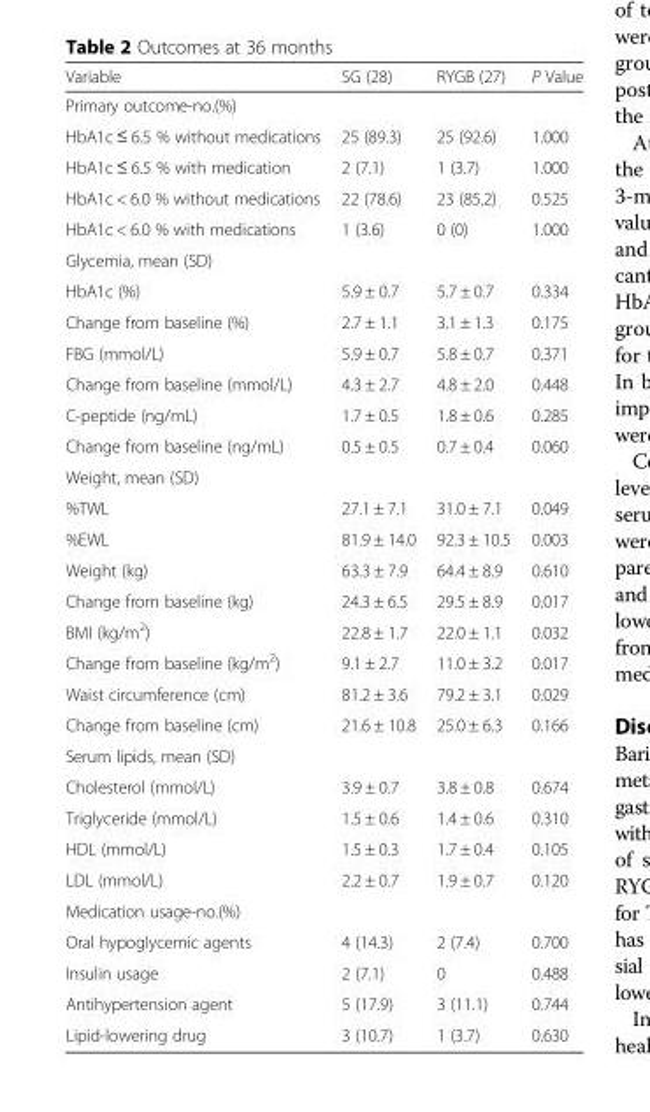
<table><thead><tr><td>Variable</td><td>SG (28)</td><td>RYGB (27)</td><td>P Value</td></tr></thead><tbody><tr><td colspan="4">Primary outcome-no.(%)</td></tr><tr><td>HbA1c ≤ 6.5 % without medications</td><td>25 (89.3)</td><td>25 (92.6)</td><td>1.000</td></tr><tr><td>HbA1c ≤ 6.5 % with medication</td><td>2 (7.1)</td><td>1 (3.7)</td><td>1.000</td></tr><tr><td>HbA1c &lt; 6.0 % without medications</td><td>22 (78.6)</td><td>23 (85.2)</td><td>0.525</td></tr><tr><td>HbA1c &lt; 6.0 % with medications</td><td>1 (3.6)</td><td>0 (0)</td><td>1.000</td></tr><tr><td colspan="4">Glycemia, mean (SD)</td></tr><tr><td>HbA1c (%)</td><td>5.9 ± 0.7</td><td>5.7 ± 0.7</td><td>0.334</td></tr><tr><td>Change from baseline (%)</td><td>2.7 ± 1.1</td><td>3.1 ± 1.3</td><td>0.175</td></tr><tr><td>FBG (mmol/L)</td><td>5.9 ± 0.7</td><td>5.8 ± 0.7</td><td>0.371</td></tr><tr><td>Change from baseline (mmol/L)</td><td>4.3 ± 2.7</td><td>4.8 ± 2.0</td><td>0.448</td></tr><tr><td>C-peptide (ng/mL)</td><td>1.7 ± 0.5</td><td>1.8 ± 0.6</td><td>0.285</td></tr><tr><td>Change from baseline (ng/mL)</td><td>0.5 ± 0.5</td><td>0.7 ± 0.4</td><td>0.060</td></tr><tr><td colspan="4">Weight, mean (SD)</td></tr><tr><td>%TWL</td><td>27.1 ± 7.1</td><td>31.0 ± 7.1</td><td>0.049</td></tr><tr><td>%EWL</td><td>81.9 ± 14.0</td><td>92.3 ± 10.5</td><td>0.003</td></tr><tr><td>Weight (kg)</td><td>63.3 ± 7.9</td><td>64.4 ± 8.9</td><td>0.610</td></tr><tr><td>Change from baseline (kg)</td><td>24.3 ± 6.5</td><td>29.5 ± 8.9</td><td>0.017</td></tr><tr><td>BMI (kg/m<sup>2</sup>)</td><td>22.8 ± 1.7</td><td>22.0 ± 1.1</td><td>0.032</td></tr><tr><td>Change from baseline (kg/m<sup>2</sup>)</td><td>9.1 ± 2.7</td><td>11.0 ± 3.2</td><td>0.017</td></tr><tr><td>Waist circumference (cm)</td><td>81.2 ± 3.6</td><td>79.2 ± 3.1</td><td>0.029</td></tr><tr><td>Change from baseline (cm)</td><td>21.6 ± 10.8</td><td>25.0 ± 6.3</td><td>0.166</td></tr><tr><td colspan="4">Serum lipids, mean (SD)</td></tr><tr><td>Cholesterol (mmol/L)</td><td>3.9 ± 0.7</td><td>3.8 ± 0.8</td><td>0.674</td></tr><tr><td>Triglyceride (mmol/L)</td><td>1.5 ± 0.6</td><td>1.4 ± 0.6</td><td>0.310</td></tr><tr><td>HDL (mmol/L)</td><td>1.5 ± 0.3</td><td>1.7 ± 0.4</td><td>0.105</td></tr><tr><td>LDL (mmol/L)</td><td>2.2 ± 0.7</td><td>1.9 ± 0.7</td><td>0.120</td></tr><tr><td colspan="4">Medication usage-no.(%)</td></tr><tr><td>Oral hypoglycemic agents</td><td>4 (14.3)</td><td>2 (7.4)</td><td>0.700</td></tr><tr><td>Insulin usage</td><td>2 (7.1)</td><td>0</td><td>0.488</td></tr><tr><td>Antihypertension agent</td><td>5 (17.9)</td><td>3 (11.1)</td><td>0.744</td></tr><tr><td>Lipid-lowering drug</td><td>3 (10.7)</td><td>1 (3.7)</td><td>0.630</td></tr></tbody></table>